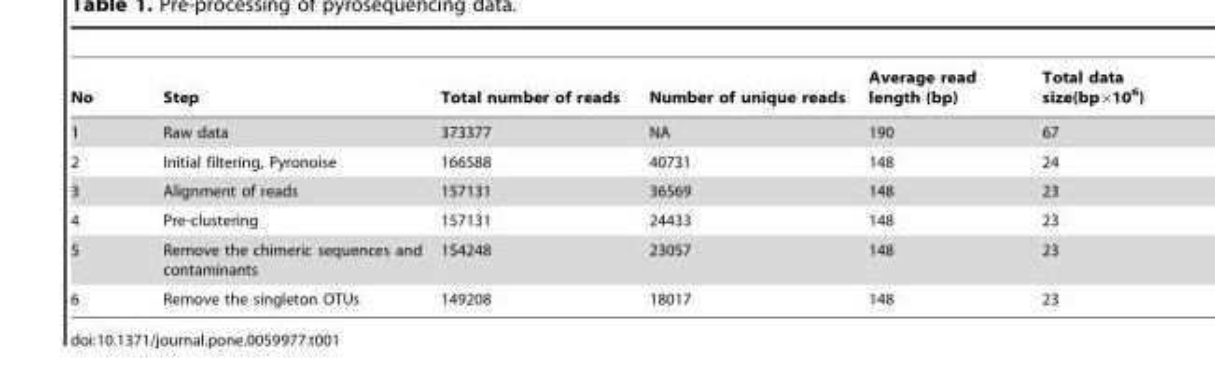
<table><thead><tr><td>No</td><td>Step</td><td>Total number of reads</td><td>Number of unique reads</td><td>Average read length (bp)</td><td>Total data size(bp×10<sup>6</sup>)</td></tr></thead><tbody><tr><td>1</td><td>Raw data</td><td>373377</td><td>NA</td><td>190</td><td>67</td></tr><tr><td>2</td><td>Initial filtering, Pyronoise</td><td>166588</td><td>40731</td><td>148</td><td>24</td></tr><tr><td>3</td><td>Alignment of reads</td><td>157131</td><td>36569</td><td>148</td><td>23</td></tr><tr><td>4</td><td>Pre-clustering</td><td>157131</td><td>24433</td><td>148</td><td>23</td></tr><tr><td>5</td><td>Remove the chimeric sequences and contaminants</td><td>154248</td><td>23057</td><td>148</td><td>23</td></tr><tr><td>6</td><td>Remove the singleton OTUs</td><td>149208</td><td>18017</td><td>148</td><td>23</td></tr></tbody></table>